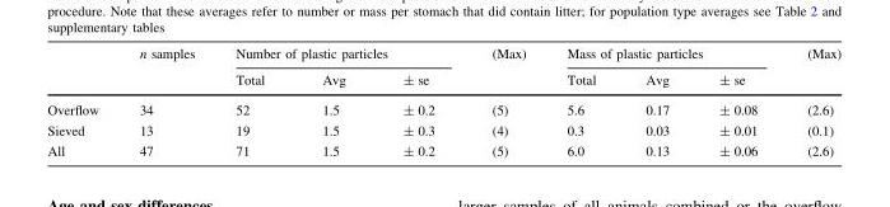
<table><thead><tr><td rowspan="2"></td><td rowspan="2">n samples</td><td colspan="3">Number of plastic particles</td><td rowspan="2">(Max)</td><td colspan="3">Mass of plastic particles</td><td rowspan="2">(Max)</td></tr><tr><td>Total</td><td>Avg</td><td>± se</td><td>Total</td><td>Avg</td><td>± se</td></tr></thead><tbody><tr><td>Overflow</td><td>34</td><td>52</td><td>1.5</td><td>± 0.2</td><td>(5)</td><td>5.6</td><td>0.17</td><td>± 0.08</td><td>(2.6)</td></tr><tr><td>Sieved</td><td>13</td><td>19</td><td>1.5</td><td>± 0.3</td><td>(4)</td><td>0.3</td><td>0.03</td><td>± 0.01</td><td>(0.1)</td></tr><tr><td>All</td><td>47</td><td>71</td><td>1.5</td><td>± 0.2</td><td>(5)</td><td>6.0</td><td>0.13</td><td>± 0.06</td><td>(2.6)</td></tr></tbody></table>